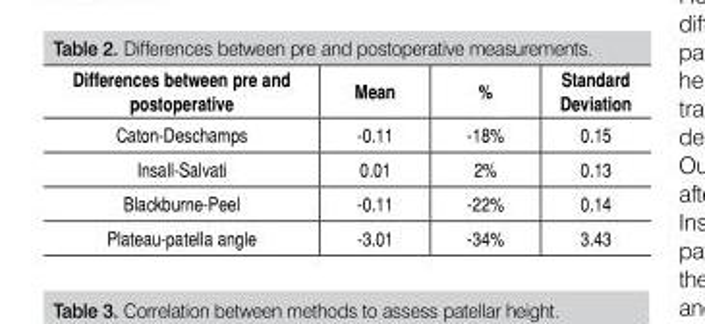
<table><thead><tr><td>Differences between pre and postoperative</td><td>Mean</td><td>%</td><td>Standard Deviation</td></tr></thead><tbody><tr><td>Caton-Deschamps</td><td>-0.11</td><td>-18%</td><td>0.15</td></tr><tr><td>Insall-Salvati</td><td>0.01</td><td>2%</td><td>0.13</td></tr><tr><td>Blackburne-Peel</td><td>-0.11</td><td>-22%</td><td>0.14</td></tr><tr><td>Plateau-patella angle</td><td>-3.01</td><td>-34%</td><td>3.43</td></tr></tbody></table>